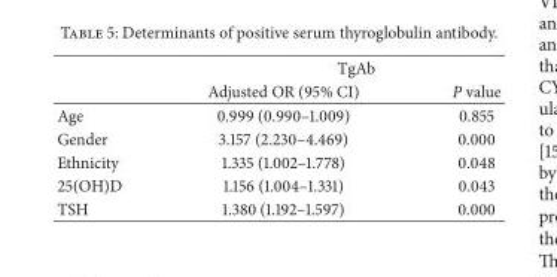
<table><thead><tr><td rowspan="2"></td><td colspan="2">TgAb</td></tr><tr><td>Adjusted OR (95% CI)</td><td>P value</td></tr></thead><tbody><tr><td>Age</td><td>0.999 (0.990–1.009)</td><td>0.855</td></tr><tr><td>Gender</td><td>3.157 (2.230–4.469)</td><td>0.000</td></tr><tr><td>Ethnicity</td><td>1.335 (1.002–1.778)</td><td>0.048</td></tr><tr><td>25(OH)D</td><td>1.156 (1.004–1.331)</td><td>0.043</td></tr><tr><td>TSH</td><td>1.380 (1.192–1.597)</td><td>0.000</td></tr></tbody></table>